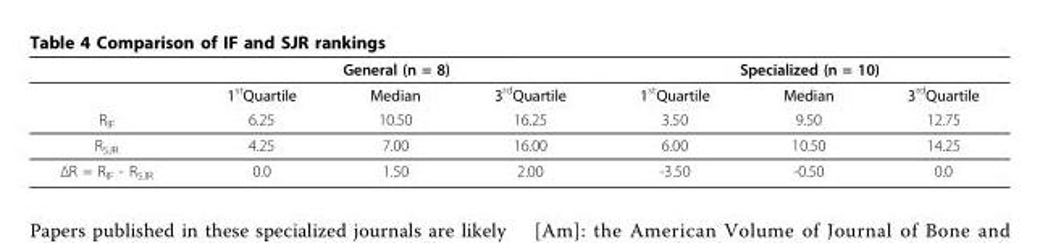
<table><thead><tr><td rowspan="2"></td><td colspan="3">General (n = 8)</td><td colspan="3">Specialized (n = 10)</td></tr><tr><td>1<sup>st</sup>Quartile</td><td>Median</td><td>3<sup>rd</sup>Quartile</td><td>1<sup>st</sup>Quartile</td><td>Median</td><td>3<sup>rd</sup>Quartile</td></tr></thead><tbody><tr><td>R<sub>IF</sub></td><td>6.25</td><td>10.50</td><td>16.25</td><td>3.50</td><td>9.50</td><td>12.75</td></tr><tr><td>R<sub>SJR</sub></td><td>4.25</td><td>7.00</td><td>16.00</td><td>6.00</td><td>10.50</td><td>14.25</td></tr><tr><td>ΔR = R<sub>IF</sub> - R<sub>SJR</sub></td><td>0.0</td><td>1.50</td><td>2.00</td><td>-3.50</td><td>-0.50</td><td>0.0</td></tr></tbody></table>